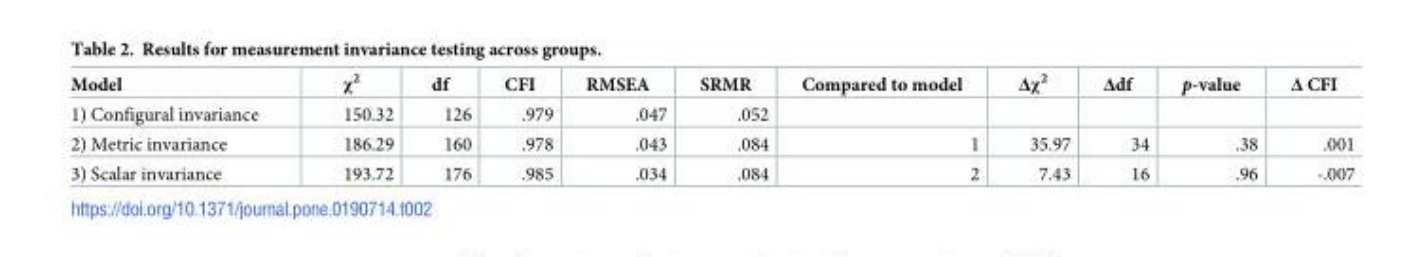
<table><thead><tr><td>Model</td><td>χ<sup>2</sup></td><td>df</td><td>CFI</td><td>RMSEA</td><td>SRMR</td><td>Compared to model</td><td>Δχ<sup>2</sup></td><td>Δdf</td><td>p-value</td><td>Δ CFI</td></tr></thead><tbody><tr><td>1) Configural invariance</td><td>150.32</td><td>126</td><td>.979</td><td>.047</td><td>.052</td><td></td><td></td><td></td><td></td><td></td></tr><tr><td>2) Metric invariance</td><td>186.29</td><td>160</td><td>.978</td><td>.043</td><td>.084</td><td>1</td><td>35.97</td><td>34</td><td>.38</td><td>.001</td></tr><tr><td>3) Scalar invariance</td><td>193.72</td><td>176</td><td>.985</td><td>.034</td><td>.084</td><td>2</td><td>7.43</td><td>16</td><td>.96</td><td>-.007</td></tr></tbody></table>